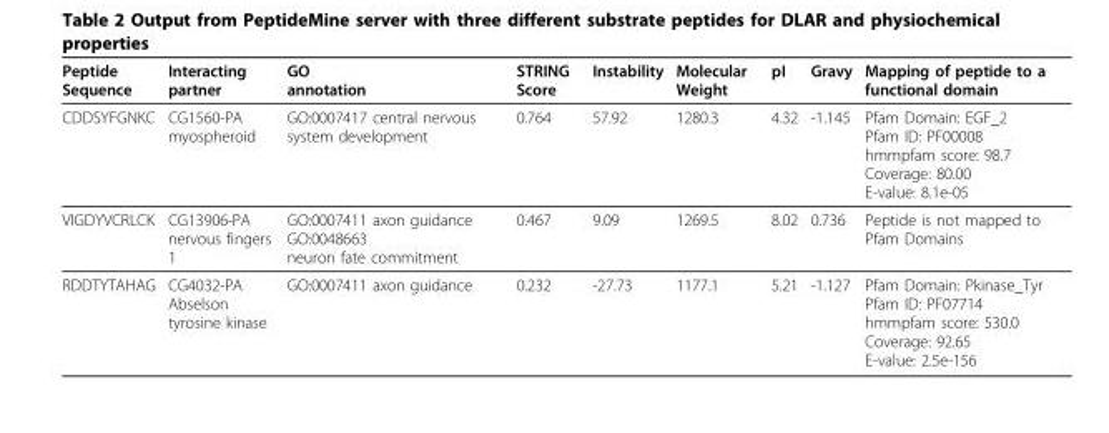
<table><thead><tr><td>Peptide Sequence</td><td>Interacting partner</td><td>GO annotation</td><td>STRING Score</td><td>Instability</td><td>Molecular Weight</td><td>pI</td><td>Gravy</td><td>Mapping of peptide to a functional domain</td></tr></thead><tbody><tr><td>CDDSYFGNKC</td><td>CG1560-PA myospheroid</td><td>GO:0007417 central nervous system development</td><td>0.764</td><td>57.92</td><td>1280.3</td><td>4.32</td><td>-1.145</td><td>Pfam Domain: EGF_2 Pfam ID: PF00008 hmmpfam score: 98.7 Coverage: 80.00 E-value: 8.1e-05</td></tr><tr><td>VIGDYVCRLCK</td><td>CG13906-PA nervous fingers 1</td><td>GO:0007411 axon guidance GO:0048663 neuron fate commitment</td><td>0.467</td><td>9.09</td><td>1269.5</td><td>8.02</td><td>0.736</td><td>Peptide is not mapped to Pfam Domains</td></tr><tr><td>RDDTYTAHAG</td><td>CG4032-PA Abselson tyrosine kinase</td><td>GO:0007411 axon guidance</td><td>0.232</td><td>-27.73</td><td>1177.1</td><td>5.21</td><td>-1.127</td><td>Pfam Domain: Pkinase_Tyr Pfam ID: PF07714 hmmpfam score: 530.0 Coverage: 92.65 E-value: 2.5e-156</td></tr></tbody></table>